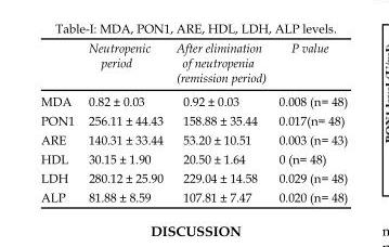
<table><thead><tr><td></td><td>Neutropenic period</td><td>After elimination of neutropenia (remission period)</td><td>P value</td></tr></thead><tbody><tr><td>MDA</td><td>0.82 ± 0.03</td><td>0.92 ± 0.03</td><td>0.008 (n= 48)</td></tr><tr><td>PON1</td><td>256.11 ± 44.43</td><td>158.88 ± 35.44</td><td>0.017(n= 48)</td></tr><tr><td>ARE</td><td>140.31 ± 33.44</td><td>53.20 ± 10.51</td><td>0.003 (n= 43)</td></tr><tr><td>HDL</td><td>30.15 ± 1.90</td><td>20.50 ± 1.64</td><td>0 (n= 48)</td></tr><tr><td>LDH</td><td>280.12 ± 25.90</td><td>229.04 ± 14.58</td><td>0.029 (n= 48)</td></tr><tr><td>ALP</td><td>81.88 ± 8.59</td><td>107.81 ± 7.47</td><td>0.020 (n= 48)</td></tr></tbody></table>